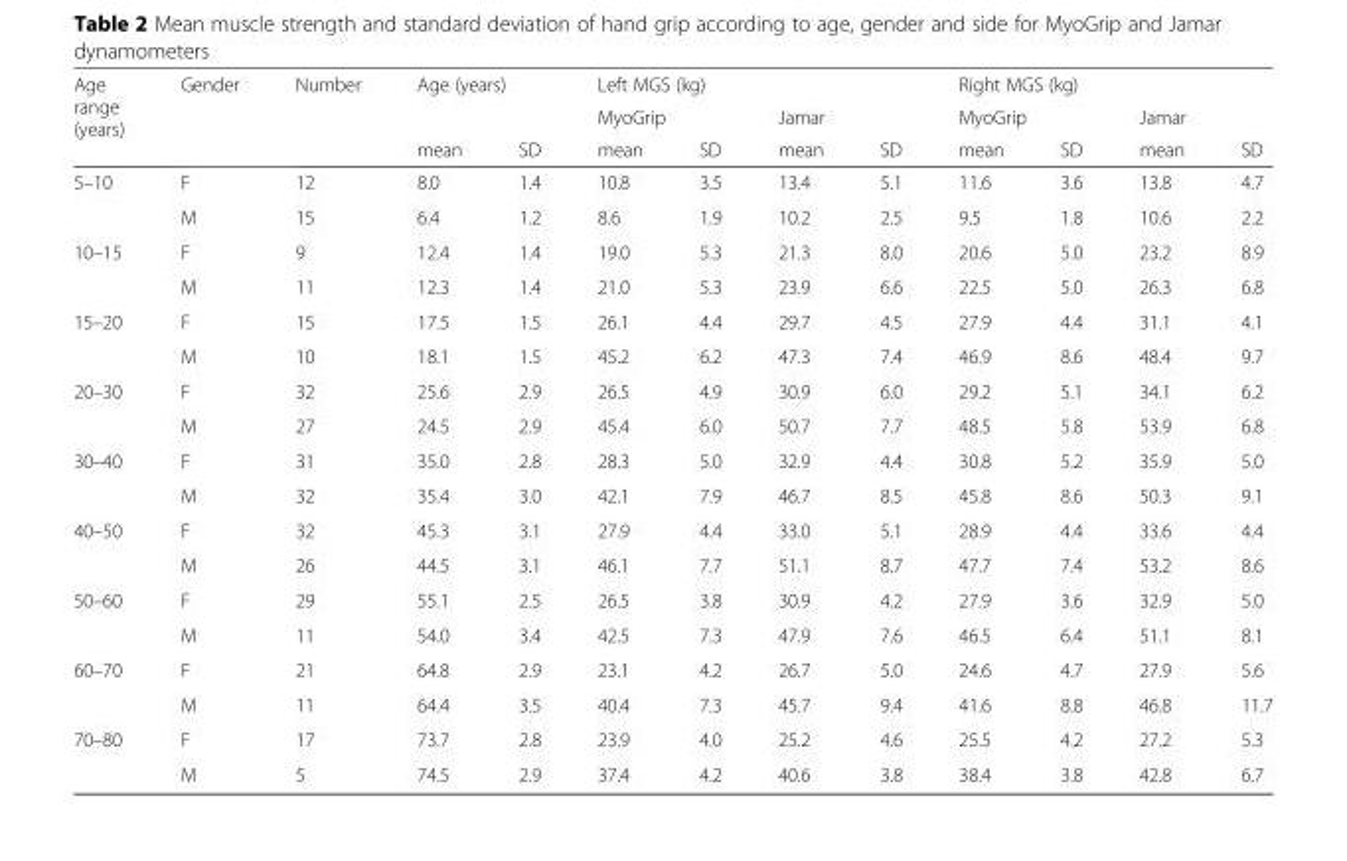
<table><thead><tr><td rowspan="3">Age range (years)</td><td rowspan="3">Gender</td><td rowspan="3">Number</td><td rowspan="2" colspan="2">Age (years)</td><td colspan="4">Left MGS (kg)</td><td colspan="4">Right MGS (kg)</td></tr><tr><td colspan="2">MyoGrip</td><td colspan="2">Jamar</td><td colspan="2">MyoGrip</td><td colspan="2">Jamar</td></tr><tr><td>mean</td><td>SD</td><td>mean</td><td>SD</td><td>mean</td><td>SD</td><td>mean</td><td>SD</td><td>mean</td><td>SD</td></tr></thead><tbody><tr><td rowspan="2">5–10</td><td>F</td><td>12</td><td>8.0</td><td>1.4</td><td>10.8</td><td>3.5</td><td>13.4</td><td>5.1</td><td>11.6</td><td>3.6</td><td>13.8</td><td>4.7</td></tr><tr><td>M</td><td>15</td><td>6.4</td><td>1.2</td><td>8.6</td><td>1.9</td><td>10.2</td><td>2.5</td><td>9.5</td><td>1.8</td><td>10.6</td><td>2.2</td></tr><tr><td rowspan="2">10–15</td><td>F</td><td>9</td><td>12.4</td><td>1.4</td><td>19.0</td><td>5.3</td><td>21.3</td><td>8.0</td><td>20.6</td><td>5.0</td><td>23.2</td><td>8.9</td></tr><tr><td>M</td><td>11</td><td>12.3</td><td>1.4</td><td>21.0</td><td>5.3</td><td>23.9</td><td>6.6</td><td>22.5</td><td>5.0</td><td>26.3</td><td>6.8</td></tr><tr><td rowspan="2">15–20</td><td>F</td><td>15</td><td>17.5</td><td>1.5</td><td>26.1</td><td>4.4</td><td>29.7</td><td>4.5</td><td>27.9</td><td>4.4</td><td>31.1</td><td>4.1</td></tr><tr><td>M</td><td>10</td><td>18.1</td><td>1.5</td><td>45.2</td><td>6.2</td><td>47.3</td><td>7.4</td><td>46.9</td><td>8.6</td><td>48.4</td><td>9.7</td></tr><tr><td rowspan="2">20–30</td><td>F</td><td>32</td><td>25.6</td><td>2.9</td><td>26.5</td><td>4.9</td><td>30.9</td><td>6.0</td><td>29.2</td><td>5.1</td><td>34.1</td><td>6.2</td></tr><tr><td>M</td><td>27</td><td>24.5</td><td>2.9</td><td>45.4</td><td>6.0</td><td>50.7</td><td>7.7</td><td>48.5</td><td>5.8</td><td>53.9</td><td>6.8</td></tr><tr><td rowspan="2">30–40</td><td>F</td><td>31</td><td>35.0</td><td>2.8</td><td>28.3</td><td>5.0</td><td>32.9</td><td>4.4</td><td>30.8</td><td>5.2</td><td>35.9</td><td>5.0</td></tr><tr><td>M</td><td>32</td><td>35.4</td><td>3.0</td><td>42.1</td><td>7.9</td><td>46.7</td><td>8.5</td><td>45.8</td><td>8.6</td><td>50.3</td><td>9.1</td></tr><tr><td rowspan="2">40–50</td><td>F</td><td>32</td><td>45.3</td><td>3.1</td><td>27.9</td><td>4.4</td><td>33.0</td><td>5.1</td><td>28.9</td><td>4.4</td><td>33.6</td><td>4.4</td></tr><tr><td>M</td><td>26</td><td>44.5</td><td>3.1</td><td>46.1</td><td>7.7</td><td>51.1</td><td>8.7</td><td>47.7</td><td>7.4</td><td>53.2</td><td>8.6</td></tr><tr><td rowspan="2">50–60</td><td>F</td><td>29</td><td>55.1</td><td>2.5</td><td>26.5</td><td>3.8</td><td>30.9</td><td>4.2</td><td>27.9</td><td>3.6</td><td>32.9</td><td>5.0</td></tr><tr><td>M</td><td>11</td><td>54.0</td><td>3.4</td><td>42.5</td><td>7.3</td><td>47.9</td><td>7.6</td><td>46.5</td><td>6.4</td><td>51.1</td><td>8.1</td></tr><tr><td rowspan="2">60–70</td><td>F</td><td>21</td><td>64.8</td><td>2.9</td><td>23.1</td><td>4.2</td><td>26.7</td><td>5.0</td><td>24.6</td><td>4.7</td><td>27.9</td><td>5.6</td></tr><tr><td>M</td><td>11</td><td>64.4</td><td>3.5</td><td>40.4</td><td>7.3</td><td>45.7</td><td>9.4</td><td>41.6</td><td>8.8</td><td>46.8</td><td>11.7</td></tr><tr><td rowspan="2">70–80</td><td>F</td><td>17</td><td>73.7</td><td>2.8</td><td>23.9</td><td>4.0</td><td>25.2</td><td>4.6</td><td>25.5</td><td>4.2</td><td>27.2</td><td>5.3</td></tr><tr><td>M</td><td>5</td><td>74.5</td><td>2.9</td><td>37.4</td><td>4.2</td><td>40.6</td><td>3.8</td><td>38.4</td><td>3.8</td><td>42.8</td><td>6.7</td></tr></tbody></table>